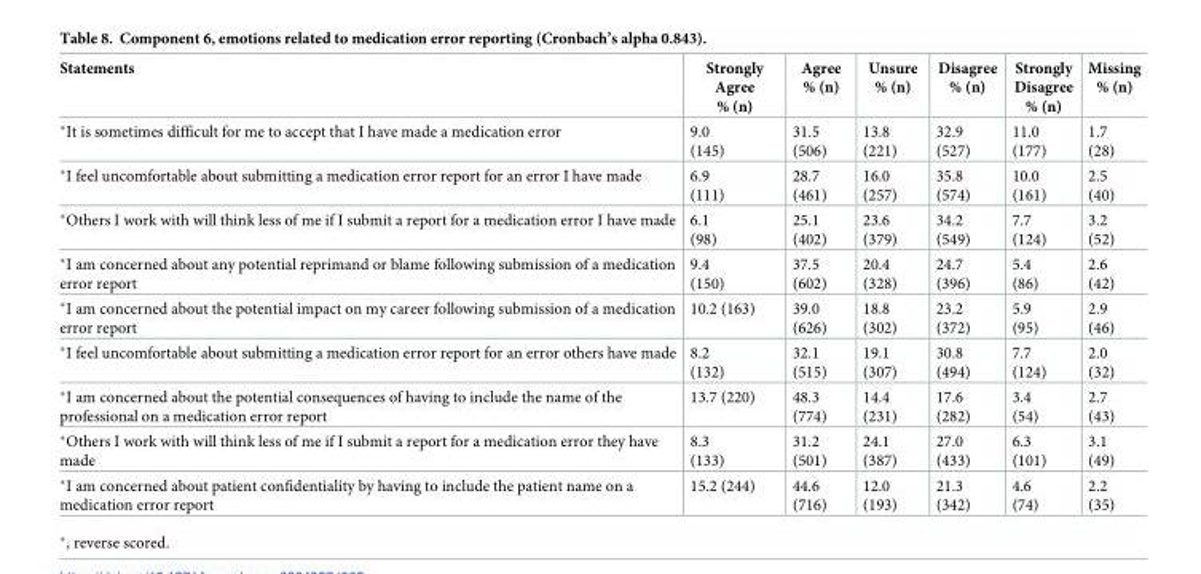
<table><thead><tr><td>Statements</td><td>Strongly Agree % (n)</td><td>Agree % (n)</td><td>Unsure % (n)</td><td>Disagree % (n)</td><td>Strongly Disagree % (n)</td><td>Missing % (n)</td></tr></thead><tbody><tr><td>*It is sometimes difficult for me to accept that I have made a medication error</td><td>9.0 (145)</td><td>31.5 (506)</td><td>13.8 (221)</td><td>32.9 (527)</td><td>11.0 (177)</td><td>1.7 (28)</td></tr><tr><td>*I feel uncomfortable about submitting a medication error report for an error I have made</td><td>6.9 (111)</td><td>28.7 (461)</td><td>16.0 (257)</td><td>35.8 (574)</td><td>10.0 (161)</td><td>2.5 (40)</td></tr><tr><td>*Others I work with will think less of me if I submit a report for a medication error I have made</td><td>6.1 (98)</td><td>25.1 (402)</td><td>23.6 (379)</td><td>34.2 (549)</td><td>7.7 (124)</td><td>3.2 (52)</td></tr><tr><td>*I am concerned about any potential reprimand or blame following submission of a medication error report</td><td>9.4 (150)</td><td>37.5 (602)</td><td>20.4 (328)</td><td>24.7 (396)</td><td>5.4 (86)</td><td>2.6 (42)</td></tr><tr><td>*I am concerned about the potential impact on my career following submission of a medication error report</td><td>10.2 (163)</td><td>39.0 (626)</td><td>18.8 (302)</td><td>23.2 (372)</td><td>5.9 (95)</td><td>2.9 (46)</td></tr><tr><td>*I feel uncomfortable about submitting a medication error report for an error others have made</td><td>8.2 (132)</td><td>32.1 (515)</td><td>19.1 (307)</td><td>30.8 (494)</td><td>7.7 (124)</td><td>2.0 (32)</td></tr><tr><td>*I am concerned about the potential consequences of having to include the name of the professional on a medication error report</td><td>13.7 (220)</td><td>48.3 (774)</td><td>14.4 (231)</td><td>17.6 (282)</td><td>3.4 (54)</td><td>2.7 (43)</td></tr><tr><td>*Others I work with will think less of me if I submit a report for a medication error they have made</td><td>8.3 (133)</td><td>31.2 (501)</td><td>24.1 (387)</td><td>27.0 (433)</td><td>6.3 (101)</td><td>3.1 (49)</td></tr><tr><td>*I am concerned about patient confidentiality by having to include the patient name on a medication error report</td><td>15.2 (244)</td><td>44.6 (716)</td><td>12.0 (193)</td><td>21.3 (342)</td><td>4.6 (74)</td><td>2.2 (35)</td></tr></tbody></table>